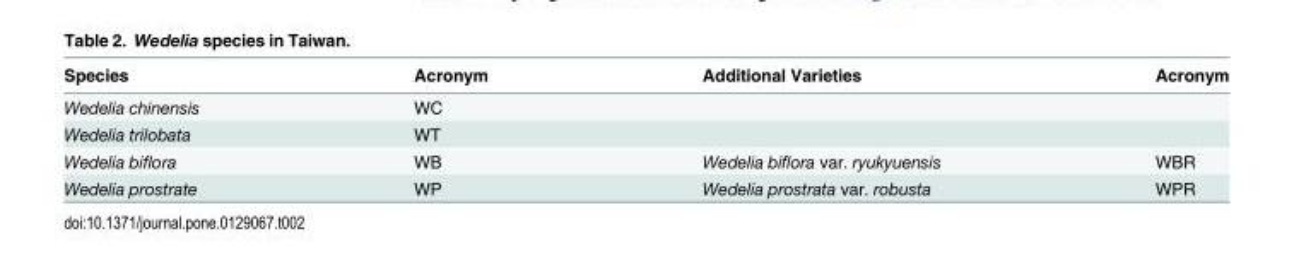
<table><thead><tr><td>Species</td><td>Acronym</td><td>Additional Varieties</td><td>Acronym</td></tr></thead><tbody><tr><td>Wedelia chinensis</td><td>WC</td><td></td><td></td></tr><tr><td>Wedelia trilobata</td><td>WT</td><td></td><td></td></tr><tr><td>Wedelia biflora</td><td>WB</td><td>Wedelia biflora var. ryukyuensis</td><td>WBR</td></tr><tr><td>Wedelia prostrate</td><td>WP</td><td>Wedelia prostrata var. robusta</td><td>WPR</td></tr></tbody></table>